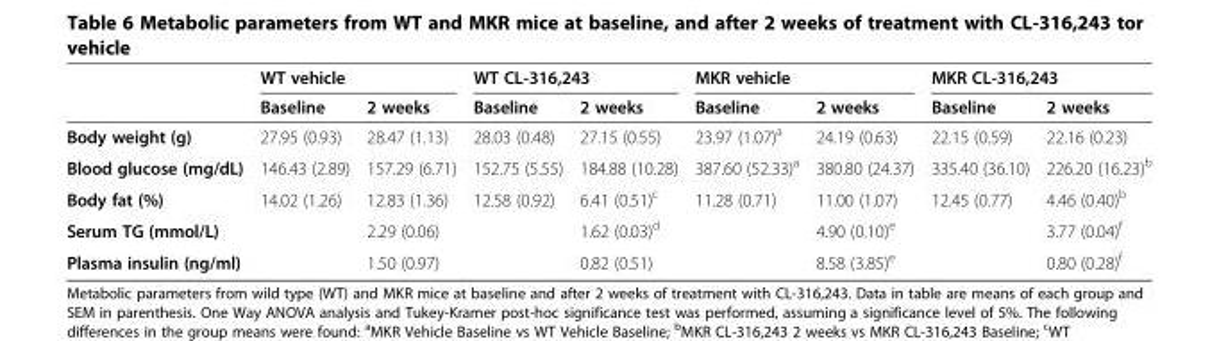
<table><thead><tr><td rowspan="2"></td><td colspan="2">WT vehicle</td><td colspan="2">WT CL-316,243</td><td colspan="2">MKR vehicle</td><td colspan="2">MKR CL-316,243</td></tr><tr><td>Baseline</td><td>2 weeks</td><td>Baseline</td><td>2 weeks</td><td>Baseline</td><td>2 weeks</td><td>Baseline</td><td>2 weeks</td></tr></thead><tbody><tr><td>Body weight (g)</td><td>27.95 (0.93)</td><td>28.47 (1.13)</td><td>28.03 (0.48)</td><td>27.15 (0.55)</td><td>23.97 (1.07)<sup>a</sup></td><td>24.19 (0.63)</td><td>22.15 (0.59)</td><td>22.16 (0.23)</td></tr><tr><td>Blood glucose (mg/dL)</td><td>146.43 (2.89)</td><td>157.29 (6.71)</td><td>152.75 (5.55)</td><td>184.88 (10.28)</td><td>387.60 (52.33)<sup>a</sup></td><td>380.80 (24.37)</td><td>335.40 (36.10)</td><td>226.20 (16.23)<sup>b</sup></td></tr><tr><td>Body fat (%)</td><td>14.02 (1.26)</td><td>12.83 (1.36)</td><td>12.58 (0.92)</td><td>6.41 (0.51)<sup>c</sup></td><td>11.28 (0.71)</td><td>11.00 (1.07)</td><td>12.45 (0.77)</td><td>4.46 (0.40)<sup>b</sup></td></tr><tr><td>Serum TG (mmol/L)</td><td></td><td>2.29 (0.06)</td><td></td><td>1.62 (0.03)<sup>d</sup></td><td></td><td>4.90 (0.10)<sup>e</sup></td><td></td><td>3.77 (0.04)<sup>f</sup></td></tr><tr><td>Plasma insulin (ng/ml)</td><td></td><td>1.50 (0.97)</td><td></td><td>0.82 (0.51)</td><td></td><td>8.58 (3.85)<sup>e</sup></td><td></td><td>0.80 (0.28)<sup>f</sup></td></tr></tbody></table>